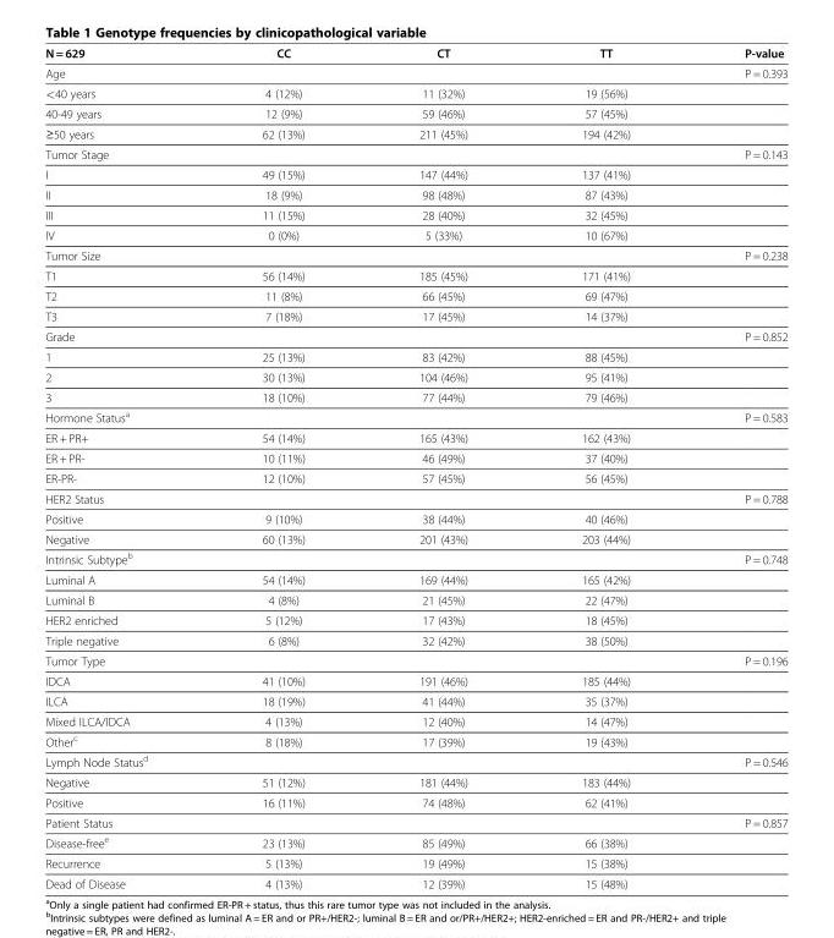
<table><thead><tr><td>N = 629</td><td>CC</td><td>CT</td><td>TT</td><td>P-value</td></tr></thead><tbody><tr><td>Age</td><td></td><td></td><td></td><td>P = 0.393</td></tr><tr><td>&lt;40 years</td><td>4 (12%)</td><td>11 (32%)</td><td>19 (56%)</td><td></td></tr><tr><td>40-49 years</td><td>12 (9%)</td><td>59 (46%)</td><td>57 (45%)</td><td></td></tr><tr><td>≥50 years</td><td>62 (13%)</td><td>211 (45%)</td><td>194 (42%)</td><td></td></tr><tr><td>Tumor Stage</td><td></td><td></td><td></td><td>P = 0.143</td></tr><tr><td>I</td><td>49 (15%)</td><td>147 (44%)</td><td>137 (41%)</td><td></td></tr><tr><td>II</td><td>18 (9%)</td><td>98 (48%)</td><td>87 (43%)</td><td></td></tr><tr><td>III</td><td>11 (15%)</td><td>28 (40%)</td><td>32 (45%)</td><td></td></tr><tr><td>IV</td><td>0 (0%)</td><td>5 (33%)</td><td>10 (67%)</td><td></td></tr><tr><td>Tumor Size</td><td></td><td></td><td></td><td>P = 0.238</td></tr><tr><td>T1</td><td>56 (14%)</td><td>185 (45%)</td><td>171 (41%)</td><td></td></tr><tr><td>T2</td><td>11 (8%)</td><td>66 (45%)</td><td>69 (47%)</td><td></td></tr><tr><td>T3</td><td>7 (18%)</td><td>17 (45%)</td><td>14 (37%)</td><td></td></tr><tr><td>Grade</td><td></td><td></td><td></td><td>P = 0.852</td></tr><tr><td>1</td><td>25 (13%)</td><td>83 (42%)</td><td>88 (45%)</td><td></td></tr><tr><td>2</td><td>30 (13%)</td><td>104 (46%)</td><td>95 (41%)</td><td></td></tr><tr><td>3</td><td>18 (10%)</td><td>77 (44%)</td><td>79 (46%)</td><td></td></tr><tr><td>Hormone Status<sup>a</sup></td><td></td><td></td><td></td><td>P = 0.583</td></tr><tr><td>ER + PR+</td><td>54 (14%)</td><td>165 (43%)</td><td>162 (43%)</td><td></td></tr><tr><td>ER + PR-</td><td>10 (11%)</td><td>46 (49%)</td><td>37 (40%)</td><td></td></tr><tr><td>ER-PR-</td><td>12 (10%)</td><td>57 (45%)</td><td>56 (45%)</td><td></td></tr><tr><td>HER2 Status</td><td></td><td></td><td></td><td>P = 0.788</td></tr><tr><td>Positive</td><td>9 (10%)</td><td>38 (44%)</td><td>40 (46%)</td><td></td></tr><tr><td>Negative</td><td>60 (13%)</td><td>201 (43%)</td><td>203 (44%)</td><td></td></tr><tr><td>Intrinsic Subtype<sup>b</sup></td><td></td><td></td><td></td><td>P = 0.748</td></tr><tr><td>Luminal A</td><td>54 (14%)</td><td>169 (44%)</td><td>165 (42%)</td><td></td></tr><tr><td>Luminal B</td><td>4 (8%)</td><td>21 (45%)</td><td>22 (47%)</td><td></td></tr><tr><td>HER2 enriched</td><td>5 (12%)</td><td>17 (43%)</td><td>18 (45%)</td><td></td></tr><tr><td>Triple negative</td><td>6 (8%)</td><td>32 (42%)</td><td>38 (50%)</td><td></td></tr><tr><td>Tumor Type</td><td></td><td></td><td></td><td>P = 0.196</td></tr><tr><td>IDCA</td><td>41 (10%)</td><td>191 (46%)</td><td>185 (44%)</td><td></td></tr><tr><td>ILCA</td><td>18 (19%)</td><td>41 (44%)</td><td>35 (37%)</td><td></td></tr><tr><td>Mixed ILCA/IDCA</td><td>4 (13%)</td><td>12 (40%)</td><td>14 (47%)</td><td></td></tr><tr><td>Other<sup>c</sup></td><td>8 (18%)</td><td>17 (39%)</td><td>19 (43%)</td><td></td></tr><tr><td>Lymph Node Status<sup>d</sup></td><td></td><td></td><td></td><td>P = 0.546</td></tr><tr><td>Negative</td><td>51 (12%)</td><td>181 (44%)</td><td>183 (44%)</td><td></td></tr><tr><td>Positive</td><td>16 (11%)</td><td>74 (48%)</td><td>62 (41%)</td><td></td></tr><tr><td>Patient Status</td><td></td><td></td><td></td><td>P = 0.857</td></tr><tr><td>Disease-free<sup>e</sup></td><td>23 (13%)</td><td>85 (49%)</td><td>66 (38%)</td><td></td></tr><tr><td>Recurrence</td><td>5 (13%)</td><td>19 (49%)</td><td>15 (38%)</td><td></td></tr><tr><td>Dead of Disease</td><td>4 (13%)</td><td>12 (39%)</td><td>15 (48%)</td><td></td></tr></tbody></table>